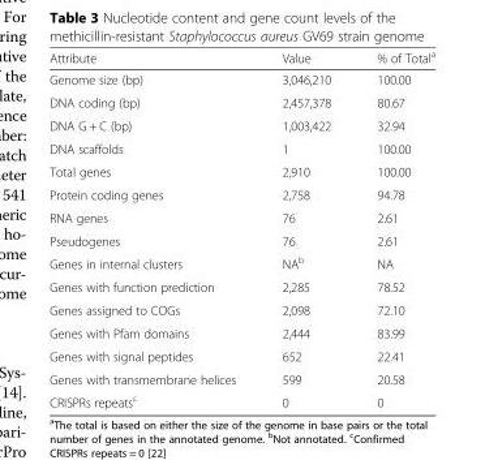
<table><thead><tr><td>Attribute</td><td>Value</td><td>% of Total<sup>a</sup></td></tr></thead><tbody><tr><td>Genome size (bp)</td><td>3,046,210</td><td>100.00</td></tr><tr><td>DNA coding (bp)</td><td>2,457,378</td><td>80.67</td></tr><tr><td>DNA G + C (bp)</td><td>1,003,422</td><td>32.94</td></tr><tr><td>DNA scaffolds</td><td>1</td><td>100.00</td></tr><tr><td>Total genes</td><td>2,910</td><td>100.00</td></tr><tr><td>Protein coding genes</td><td>2,758</td><td>94.78</td></tr><tr><td>RNA genes</td><td>76</td><td>2.61</td></tr><tr><td>Pseudogenes</td><td>76</td><td>2.61</td></tr><tr><td>Genes in internal clusters</td><td>NA<sup>b</sup></td><td>NA</td></tr><tr><td>Genes with function prediction</td><td>2,285</td><td>78.52</td></tr><tr><td>Genes assigned to COGs</td><td>2,098</td><td>72.10</td></tr><tr><td>Genes with Pfam domains</td><td>2,444</td><td>83.99</td></tr><tr><td>Genes with signal peptides</td><td>652</td><td>22.41</td></tr><tr><td>Genes with transmembrane helices</td><td>599</td><td>20.58</td></tr><tr><td>CRISPRs repeats<sup>c</sup></td><td>0</td><td>0</td></tr></tbody></table>